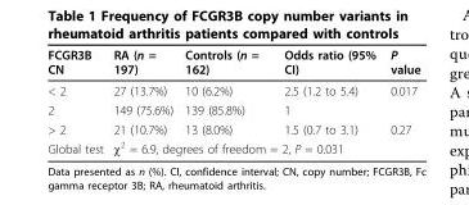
<table><thead><tr><td>FCGR3B CN</td><td>RA (n = 197)</td><td>Controls (n = 162)</td><td>Odds ratio (95% CI)</td><td>P value</td></tr></thead><tbody><tr><td>&lt; 2</td><td>27 (13.7%)</td><td>10 (6.2%)</td><td>2.5 (1.2 to 5.4)</td><td>0.017</td></tr><tr><td>2</td><td>149 (75.6%)</td><td>139 (85.8%)</td><td>1</td><td></td></tr><tr><td>&gt; 2</td><td>21 (10.7%)</td><td>13 (8.0%)</td><td>1.5 (0.7 to 3.1)</td><td>0.27</td></tr><tr><td>Global test</td><td colspan="4">χ<sup>2</sup> = 6.9, degrees of freedom = 2, P = 0.031</td></tr></tbody></table>